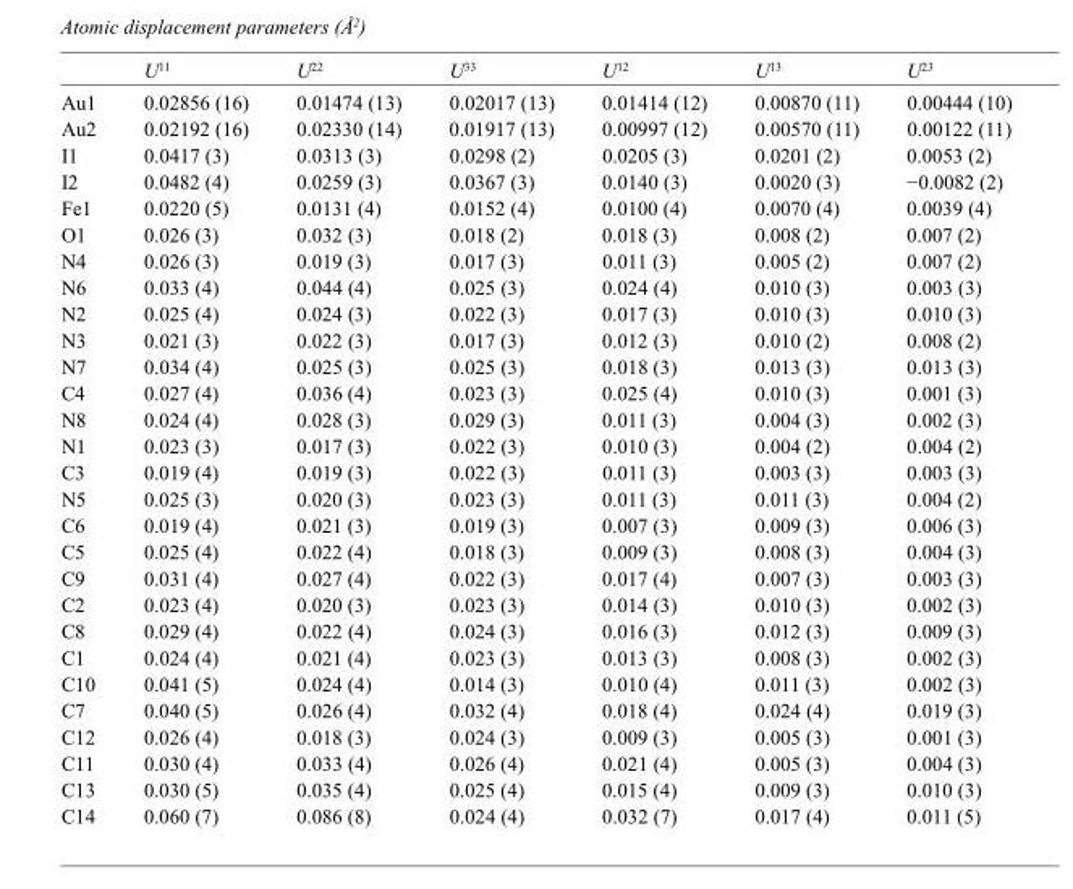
<table><thead><tr><td></td><td>U<sup>11</sup></td><td>U<sup>22</sup></td><td>U<sup>33</sup></td><td>U<sup>12</sup></td><td>U<sup>13</sup></td><td>U<sup>23</sup></td></tr></thead><tbody><tr><td>Au1</td><td>0.02856 (16)</td><td>0.01474 (13)</td><td>0.02017 (13)</td><td>0.01414 (12)</td><td>0.00870 (11)</td><td>0.00444 (10)</td></tr><tr><td>Au2</td><td>0.02192 (16)</td><td>0.02330 (14)</td><td>0.01917 (13)</td><td>0.00997 (12)</td><td>0.00570 (11)</td><td>0.00122 (11)</td></tr><tr><td>I1</td><td>0.0417 (3)</td><td>0.0313 (3)</td><td>0.0298 (2)</td><td>0.0205 (3)</td><td>0.0201 (2)</td><td>0.0053 (2)</td></tr><tr><td>I2</td><td>0.0482 (4)</td><td>0.0259 (3)</td><td>0.0367 (3)</td><td>0.0140 (3)</td><td>0.0020 (3)</td><td>−0.0082 (2)</td></tr><tr><td>Fe1</td><td>0.0220 (5)</td><td>0.0131 (4)</td><td>0.0152 (4)</td><td>0.0100 (4)</td><td>0.0070 (4)</td><td>0.0039 (4)</td></tr><tr><td>O1</td><td>0.026 (3)</td><td>0.032 (3)</td><td>0.018 (2)</td><td>0.018 (3)</td><td>0.008 (2)</td><td>0.007 (2)</td></tr><tr><td>N4</td><td>0.026 (3)</td><td>0.019 (3)</td><td>0.017 (3)</td><td>0.011 (3)</td><td>0.005 (2)</td><td>0.007 (2)</td></tr><tr><td>N6</td><td>0.033 (4)</td><td>0.044 (4)</td><td>0.025 (3)</td><td>0.024 (4)</td><td>0.010 (3)</td><td>0.003 (3)</td></tr><tr><td>N2</td><td>0.025 (4)</td><td>0.024 (3)</td><td>0.022 (3)</td><td>0.017 (3)</td><td>0.010 (3)</td><td>0.010 (3)</td></tr><tr><td>N3</td><td>0.021 (3)</td><td>0.022 (3)</td><td>0.017 (3)</td><td>0.012 (3)</td><td>0.010 (2)</td><td>0.008 (2)</td></tr><tr><td>N7</td><td>0.034 (4)</td><td>0.025 (3)</td><td>0.025 (3)</td><td>0.018 (3)</td><td>0.013 (3)</td><td>0.013 (3)</td></tr><tr><td>C4</td><td>0.027 (4)</td><td>0.036 (4)</td><td>0.023 (3)</td><td>0.025 (4)</td><td>0.010 (3)</td><td>0.001 (3)</td></tr><tr><td>N8</td><td>0.024 (4)</td><td>0.028 (3)</td><td>0.029 (3)</td><td>0.011 (3)</td><td>0.004 (3)</td><td>0.002 (3)</td></tr><tr><td>N1</td><td>0.023 (3)</td><td>0.017 (3)</td><td>0.022 (3)</td><td>0.010 (3)</td><td>0.004 (2)</td><td>0.004 (2)</td></tr><tr><td>C3</td><td>0.019 (4)</td><td>0.019 (3)</td><td>0.022 (3)</td><td>0.011 (3)</td><td>0.003 (3)</td><td>0.003 (3)</td></tr><tr><td>N5</td><td>0.025 (3)</td><td>0.020 (3)</td><td>0.023 (3)</td><td>0.011 (3)</td><td>0.011 (3)</td><td>0.004 (2)</td></tr><tr><td>C6</td><td>0.019 (4)</td><td>0.021 (3)</td><td>0.019 (3)</td><td>0.007 (3)</td><td>0.009 (3)</td><td>0.006 (3)</td></tr><tr><td>C5</td><td>0.025 (4)</td><td>0.022 (4)</td><td>0.018 (3)</td><td>0.009 (3)</td><td>0.008 (3)</td><td>0.004 (3)</td></tr><tr><td>C9</td><td>0.031 (4)</td><td>0.027 (4)</td><td>0.022 (3)</td><td>0.017 (4)</td><td>0.007 (3)</td><td>0.003 (3)</td></tr><tr><td>C2</td><td>0.023 (4)</td><td>0.020 (3)</td><td>0.023 (3)</td><td>0.014 (3)</td><td>0.010 (3)</td><td>0.002 (3)</td></tr><tr><td>C8</td><td>0.029 (4)</td><td>0.022 (4)</td><td>0.024 (3)</td><td>0.016 (3)</td><td>0.012 (3)</td><td>0.009 (3)</td></tr><tr><td>C1</td><td>0.024 (4)</td><td>0.021 (4)</td><td>0.023 (3)</td><td>0.013 (3)</td><td>0.008 (3)</td><td>0.002 (3)</td></tr><tr><td>C10</td><td>0.041 (5)</td><td>0.024 (4)</td><td>0.014 (3)</td><td>0.010 (4)</td><td>0.011 (3)</td><td>0.002 (3)</td></tr><tr><td>C7</td><td>0.040 (5)</td><td>0.026 (4)</td><td>0.032 (4)</td><td>0.018 (4)</td><td>0.024 (4)</td><td>0.019 (3)</td></tr><tr><td>C12</td><td>0.026 (4)</td><td>0.018 (3)</td><td>0.024 (3)</td><td>0.009 (3)</td><td>0.005 (3)</td><td>0.001 (3)</td></tr><tr><td>C11</td><td>0.030 (4)</td><td>0.033 (4)</td><td>0.026 (4)</td><td>0.021 (4)</td><td>0.005 (3)</td><td>0.004 (3)</td></tr><tr><td>C13</td><td>0.030 (5)</td><td>0.035 (4)</td><td>0.025 (4)</td><td>0.015 (4)</td><td>0.009 (3)</td><td>0.010 (3)</td></tr><tr><td>C14</td><td>0.060 (7)</td><td>0.086 (8)</td><td>0.024 (4)</td><td>0.032 (7)</td><td>0.017 (4)</td><td>0.011 (5)</td></tr></tbody></table>